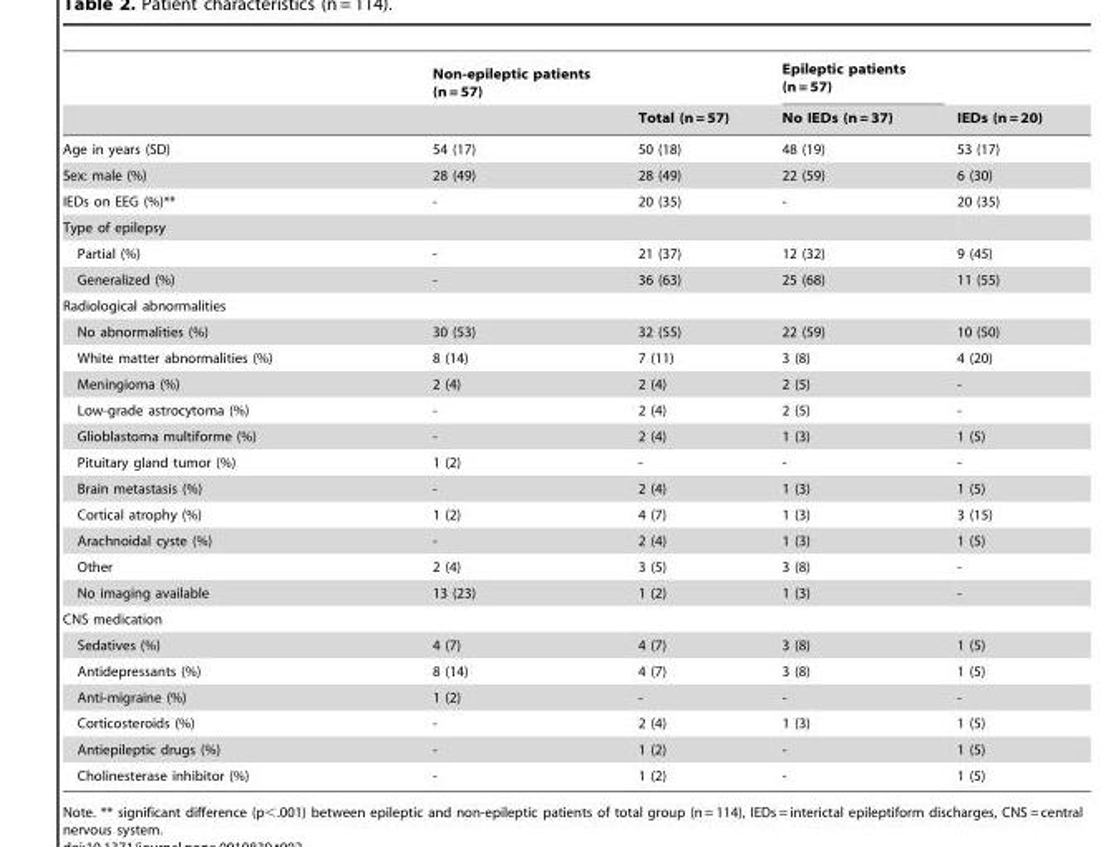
<table><thead><tr><td rowspan="2"></td><td rowspan="2">Non-epileptic patients (n = 57)</td><td rowspan="2">Total (n = 57)</td><td rowspan="2">Epileptic patients (n = 57) No IEDs (n = 37)</td><td rowspan="2">IEDs (n = 20)</td></tr><tr></tr></thead><tbody><tr><td>Age in years (SD)</td><td>54 (17)</td><td>50 (18)</td><td>48 (19)</td><td>53 (17)</td></tr><tr><td>Sex: male (%)</td><td>28 (49)</td><td>28 (49)</td><td>22 (59)</td><td>6 (30)</td></tr><tr><td>IEDs on EEG (%)**</td><td>-</td><td>20 (35)</td><td>-</td><td>20 (35)</td></tr><tr><td colspan="5">Type of epilepsy</td></tr><tr><td>Partial (%)</td><td>-</td><td>21 (37)</td><td>12 (32)</td><td>9 (45)</td></tr><tr><td>Generalized (%)</td><td>-</td><td>36 (63)</td><td>25 (68)</td><td>11 (55)</td></tr><tr><td colspan="5">Radiological abnormalities</td></tr><tr><td>No abnormalities (%)</td><td>30 (53)</td><td>32 (55)</td><td>22 (59)</td><td>10 (50)</td></tr><tr><td>White matter abnormalities (%)</td><td>8 (14)</td><td>7 (11)</td><td>3 (8)</td><td>4 (20)</td></tr><tr><td>Meningioma (%)</td><td>2 (4)</td><td>2 (4)</td><td>2 (5)</td><td>-</td></tr><tr><td>Low-grade astrocytoma (%)</td><td>-</td><td>2 (4)</td><td>2 (5)</td><td>-</td></tr><tr><td>Glioblastoma multiforme (%)</td><td>-</td><td>2 (4)</td><td>1 (3)</td><td>1 (5)</td></tr><tr><td>Pituitary gland tumor (%)</td><td>1 (2)</td><td>-</td><td>-</td><td>-</td></tr><tr><td>Brain metastasis (%)</td><td>-</td><td>2 (4)</td><td>1 (3)</td><td>1 (5)</td></tr><tr><td>Cortical atrophy (%)</td><td>1 (2)</td><td>4 (7)</td><td>1 (3)</td><td>3 (15)</td></tr><tr><td>Arachnoidal cyste (%)</td><td>-</td><td>2 (4)</td><td>1 (3)</td><td>1 (5)</td></tr><tr><td>Other</td><td>2 (4)</td><td>3 (5)</td><td>3 (8)</td><td>-</td></tr><tr><td>No imaging available</td><td>13 (23)</td><td>1 (2)</td><td>1 (3)</td><td>-</td></tr><tr><td colspan="5">CNS medication</td></tr><tr><td>Sedatives (%)</td><td>4 (7)</td><td>4 (7)</td><td>3 (8)</td><td>1 (5)</td></tr><tr><td>Antidepressants (%)</td><td>8 (14)</td><td>4 (7)</td><td>3 (8)</td><td>1 (5)</td></tr><tr><td>Anti-migraine (%)</td><td>1 (2)</td><td>-</td><td>-</td><td>-</td></tr><tr><td>Corticosteroids (%)</td><td>-</td><td>2 (4)</td><td>1 (3)</td><td>1 (5)</td></tr><tr><td>Antiepileptic drugs (%)</td><td>-</td><td>1 (2)</td><td>-</td><td>1 (5)</td></tr><tr><td>Cholinesterase inhibitor (%)</td><td>-</td><td>1 (2)</td><td>-</td><td>1 (5)</td></tr></tbody></table>